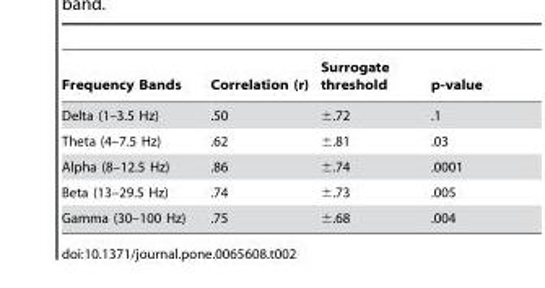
<table><thead><tr><td>Frequency Bands</td><td>Correlation (r)</td><td>Surrogate threshold</td><td>p-value</td></tr></thead><tbody><tr><td>Delta (1–3.5 Hz)</td><td>.50</td><td>±.72</td><td>.1</td></tr><tr><td>Theta (4–7.5 Hz)</td><td>.62</td><td>±.81</td><td>.03</td></tr><tr><td>Alpha (8–12.5 Hz)</td><td>.86</td><td>±.74</td><td>.0001</td></tr><tr><td>Beta (13–29.5 Hz)</td><td>.74</td><td>±.73</td><td>.005</td></tr><tr><td>Gamma (30–100 Hz)</td><td>.75</td><td>±.68</td><td>.004</td></tr></tbody></table>